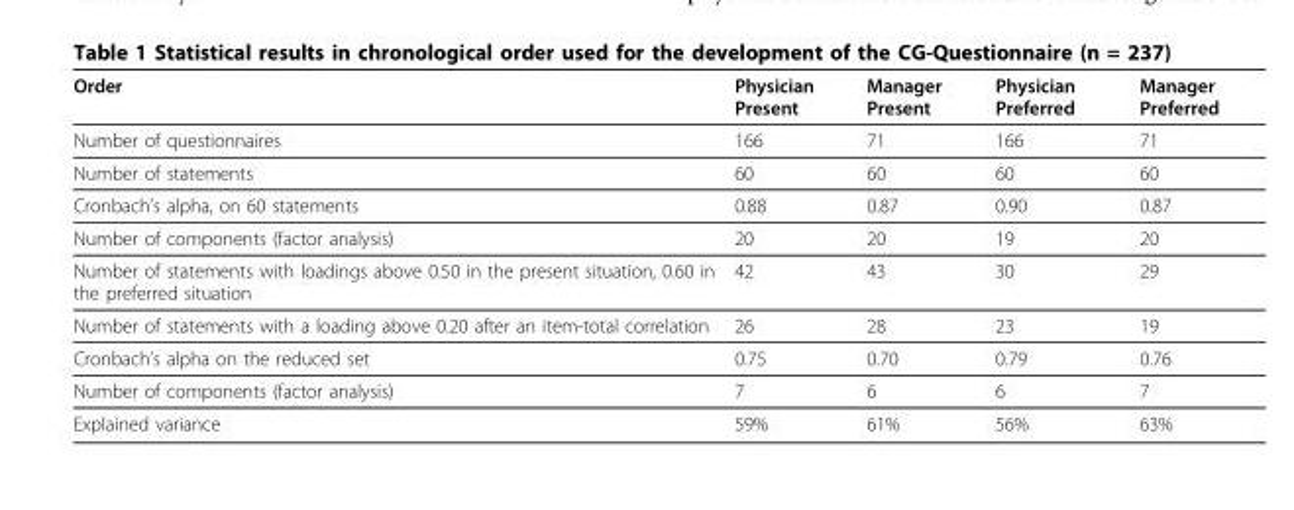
<table><thead><tr><td>Order</td><td>Physician Present</td><td>Manager Present</td><td>Physician Preferred</td><td>Manager Preferred</td></tr></thead><tbody><tr><td>Number of questionnaires</td><td>166</td><td>71</td><td>166</td><td>71</td></tr><tr><td>Number of statements</td><td>60</td><td>60</td><td>60</td><td>60</td></tr><tr><td>Cronbach’s alpha, on 60 statements</td><td>0.88</td><td>0.87</td><td>0.90</td><td>0.87</td></tr><tr><td>Number of components (factor analysis)</td><td>20</td><td>20</td><td>19</td><td>20</td></tr><tr><td>Number of statements with loadings above 0.50 in the present situation, 0.60 in the preferred situation</td><td>42</td><td>43</td><td>30</td><td>29</td></tr><tr><td>Number of statements with a loading above 0.20 after an item-total correlation</td><td>26</td><td>28</td><td>23</td><td>19</td></tr><tr><td>Cronbach’s alpha on the reduced set</td><td>0.75</td><td>0.70</td><td>0.79</td><td>0.76</td></tr><tr><td>Number of components (factor analysis)</td><td>7</td><td>6</td><td>6</td><td>7</td></tr><tr><td>Explained variance</td><td>59%</td><td>61%</td><td>56%</td><td>63%</td></tr></tbody></table>